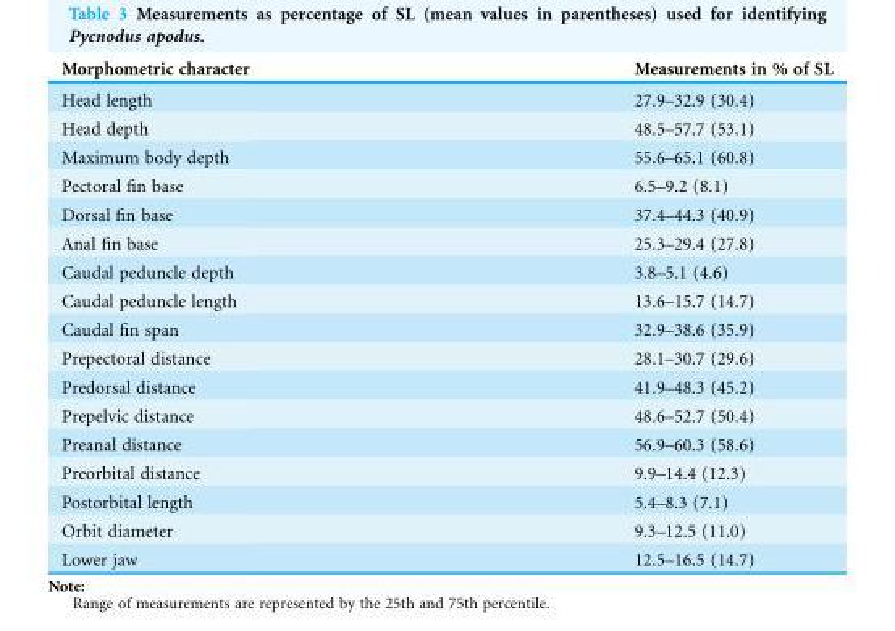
<table><thead><tr><td>Morphometric character</td><td>Measurements in % of SL</td></tr></thead><tbody><tr><td>Head length</td><td>27.9–32.9 (30.4)</td></tr><tr><td>Head depth</td><td>48.5–57.7 (53.1)</td></tr><tr><td>Maximum body depth</td><td>55.6–65.1 (60.8)</td></tr><tr><td>Pectoral fin base</td><td>6.5–9.2 (8.1)</td></tr><tr><td>Dorsal fin base</td><td>37.4–44.3 (40.9)</td></tr><tr><td>Anal fin base</td><td>25.3–29.4 (27.8)</td></tr><tr><td>Caudal peduncle depth</td><td>3.8–5.1 (4.6)</td></tr><tr><td>Caudal peduncle length</td><td>13.6–15.7 (14.7)</td></tr><tr><td>Caudal fin span</td><td>32.9–38.6 (35.9)</td></tr><tr><td>Prepectoral distance</td><td>28.1–30.7 (29.6)</td></tr><tr><td>Predorsal distance</td><td>41.9–48.3 (45.2)</td></tr><tr><td>Prepelvic distance</td><td>48.6–52.7 (50.4)</td></tr><tr><td>Preanal distance</td><td>56.9–60.3 (58.6)</td></tr><tr><td>Preorbital distance</td><td>9.9–14.4 (12.3)</td></tr><tr><td>Postorbital length</td><td>5.4–8.3 (7.1)</td></tr><tr><td>Orbit diameter</td><td>9.3–12.5 (11.0)</td></tr><tr><td>Lower jaw</td><td>12.5–16.5 (14.7)</td></tr></tbody></table>